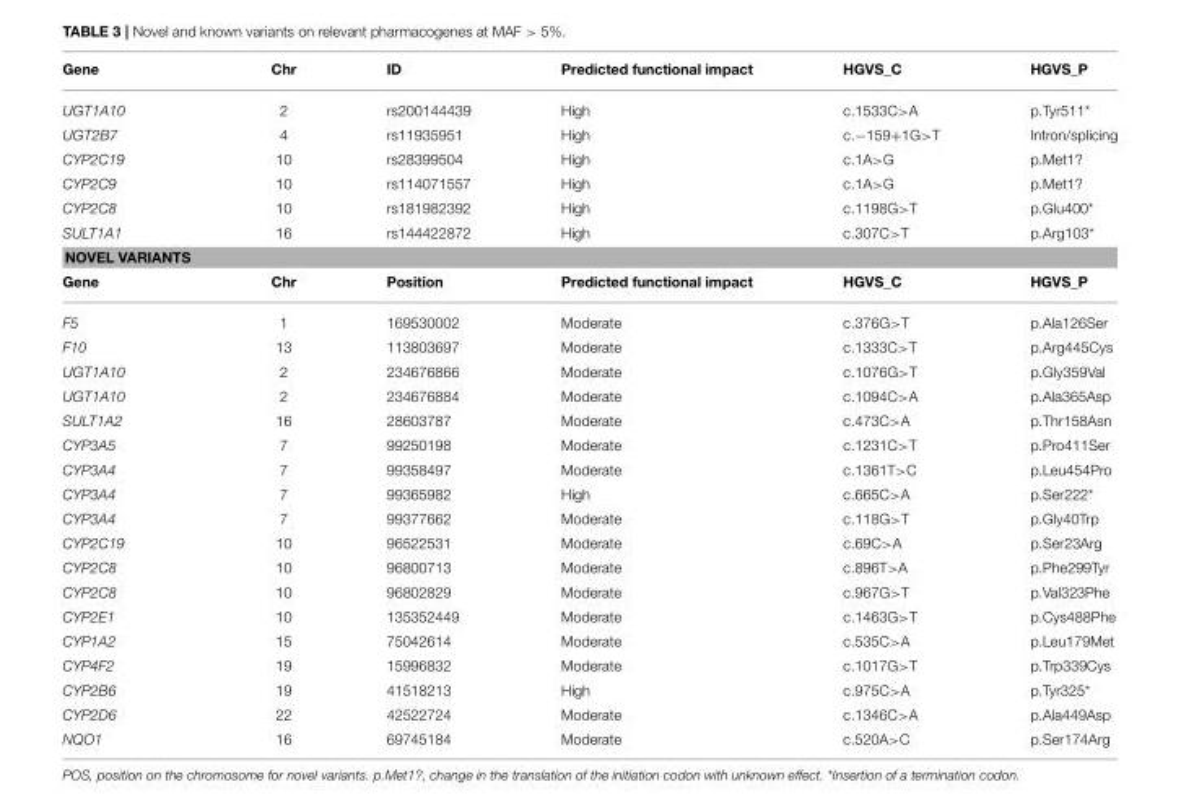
<table><thead><tr><td>Gene</td><td>Chr</td><td>ID</td><td>Predicted functional impact</td><td>HGVS_C</td><td>HGVS_P</td></tr></thead><tbody><tr><td>UGT1A10</td><td>2</td><td>rs200144439</td><td>High</td><td>c.1533C&gt;A</td><td>p.Tyr511*</td></tr><tr><td>UGT2B7</td><td>4</td><td>rs11935951</td><td>High</td><td>c.−159+1G&gt;T</td><td>Intron/splicing</td></tr><tr><td>CYP2C19</td><td>10</td><td>rs28399504</td><td>High</td><td>c.1A&gt;G</td><td>p.Met1?</td></tr><tr><td>CYP2C9</td><td>10</td><td>rs114071557</td><td>High</td><td>c.1A&gt;G</td><td>p.Met1?</td></tr><tr><td>CYP2C8</td><td>10</td><td>rs181982392</td><td>High</td><td>c.1198G&gt;T</td><td>p.Glu400*</td></tr><tr><td>SULT1A1</td><td>16</td><td>rs144422872</td><td>High</td><td>c.307C&gt;T</td><td>p.Arg103*</td></tr><tr><td colspan="6">NOVEL VARIANTS</td></tr><tr><td>Gene</td><td>Chr</td><td>Position</td><td>Predicted functional impact</td><td>HGVS_C</td><td>HGVS_P</td></tr><tr><td>F5</td><td>1</td><td>169530002</td><td>Moderate</td><td>c.376G&gt;T</td><td>p.Ala126Ser</td></tr><tr><td>F10</td><td>13</td><td>113803697</td><td>Moderate</td><td>c.1333C&gt;T</td><td>p.Arg445Cys</td></tr><tr><td>UGT1A10</td><td>2</td><td>234676866</td><td>Moderate</td><td>c.1076G&gt;T</td><td>p.Gly359Val</td></tr><tr><td>UGT1A10</td><td>2</td><td>234676884</td><td>Moderate</td><td>c.1094C&gt;A</td><td>p.Ala365Asp</td></tr><tr><td>SULT1A2</td><td>16</td><td>28603787</td><td>Moderate</td><td>c.473C&gt;A</td><td>p.Thr158Asn</td></tr><tr><td>CYP3A5</td><td>7</td><td>99250198</td><td>Moderate</td><td>c.1231C&gt;T</td><td>p.Pro411Ser</td></tr><tr><td>CYP3A4</td><td>7</td><td>99358497</td><td>Moderate</td><td>c.1361T&gt;C</td><td>p.Leu454Pro</td></tr><tr><td>CYP3A4</td><td>7</td><td>99365982</td><td>High</td><td>c.665C&gt;A</td><td>p.Ser222*</td></tr><tr><td>CYP3A4</td><td>7</td><td>99377662</td><td>Moderate</td><td>c.118G&gt;T</td><td>p.Gly40Trp</td></tr><tr><td>CYP2C19</td><td>10</td><td>96522531</td><td>Moderate</td><td>c.69C&gt;A</td><td>p.Ser23Arg</td></tr><tr><td>CYP2C8</td><td>10</td><td>96800713</td><td>Moderate</td><td>c.896T&gt;A</td><td>p.Phe299Tyr</td></tr><tr><td>CYP2C8</td><td>10</td><td>96802829</td><td>Moderate</td><td>c.967G&gt;T</td><td>p.Val323Phe</td></tr><tr><td>CYP2E1</td><td>10</td><td>135352449</td><td>Moderate</td><td>c.1463G&gt;T</td><td>p.Cys488Phe</td></tr><tr><td>CYP1A2</td><td>15</td><td>75042614</td><td>Moderate</td><td>c.535C&gt;A</td><td>p.Leu179Met</td></tr><tr><td>CYP4F2</td><td>19</td><td>15996832</td><td>Moderate</td><td>c.1017G&gt;T</td><td>p.Trp339Cys</td></tr><tr><td>CYP2B6</td><td>19</td><td>41518213</td><td>High</td><td>c.975C&gt;A</td><td>p.Tyr325*</td></tr><tr><td>CYP2D6</td><td>22</td><td>42522724</td><td>Moderate</td><td>c.1346C&gt;A</td><td>p.Ala449Asp</td></tr><tr><td>NQO1</td><td>16</td><td>69745184</td><td>Moderate</td><td>c.520A&gt;C</td><td>p.Ser174Arg</td></tr></tbody></table>